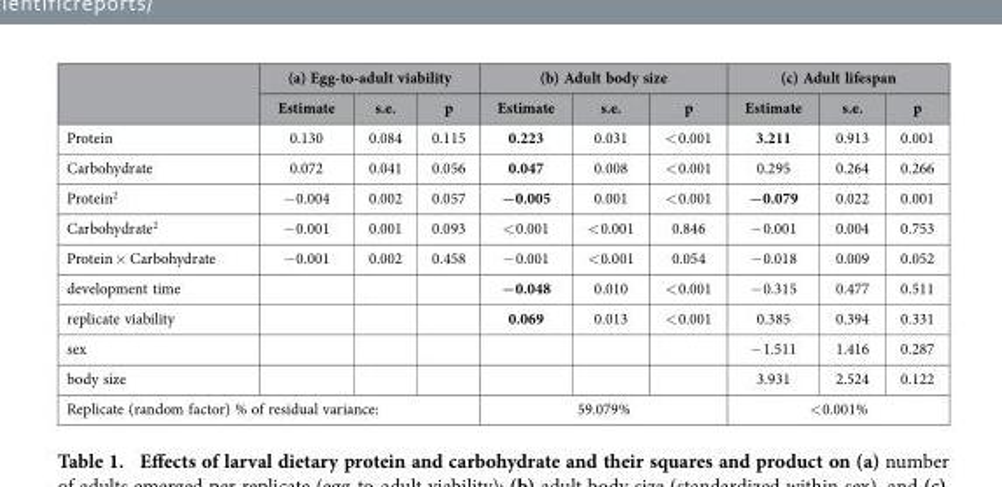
<table><thead><tr><td rowspan="2"></td><td colspan="3">(a) Egg-to-adult viability</td><td colspan="3">(b) Adult body size</td><td colspan="3">(c) Adult lifespan</td></tr><tr><td>Estimate</td><td>s.e.</td><td>p</td><td>Estimate</td><td>s.e.</td><td>p</td><td>Estimate</td><td>s.e.</td><td>p</td></tr></thead><tbody><tr><td>Protein</td><td>0.130</td><td>0.084</td><td>0.115</td><td>0.223</td><td>0.031</td><td>&lt; 0.001</td><td>3.211</td><td>0.913</td><td>0.001</td></tr><tr><td>Carbohydrate</td><td>0.072</td><td>0.041</td><td>0.056</td><td>0.047</td><td>0.008</td><td>&lt; 0.001</td><td>0.295</td><td>0.264</td><td>0.266</td></tr><tr><td>Protein<sup>2</sup></td><td>− 0.004</td><td>0.002</td><td>0.057</td><td>−0.005</td><td>0.001</td><td>&lt; 0.001</td><td>−0.079</td><td>0.022</td><td>0.001</td></tr><tr><td>Carbohydrate<sup>2</sup></td><td>− 0.001</td><td>0.001</td><td>0.093</td><td>&lt; 0.001</td><td>&lt; 0.001</td><td>0.846</td><td>− 0.001</td><td>0.004</td><td>0.753</td></tr><tr><td>Protein × Carbohydrate</td><td>− 0.001</td><td>0.002</td><td>0.458</td><td>− 0.001</td><td>&lt; 0.001</td><td>0.054</td><td>− 0.018</td><td>0.009</td><td>0.052</td></tr><tr><td>development time</td><td></td><td></td><td></td><td>−0.048</td><td>0.010</td><td>&lt; 0.001</td><td>− 0.315</td><td>0.477</td><td>0.511</td></tr><tr><td>replicate viability</td><td></td><td></td><td></td><td>0.069</td><td>0.013</td><td>&lt; 0.001</td><td>0.385</td><td>0.394</td><td>0.331</td></tr><tr><td>sex</td><td></td><td></td><td></td><td></td><td></td><td></td><td>− 1.511</td><td>1.416</td><td>0.287</td></tr><tr><td>body size</td><td></td><td></td><td></td><td></td><td></td><td></td><td>3.931</td><td>2.524</td><td>0.122</td></tr><tr><td colspan="4">Replicate (random factor) % of residual variance:</td><td colspan="3">59.079%</td><td colspan="3">&lt; 0.001%</td></tr></tbody></table>